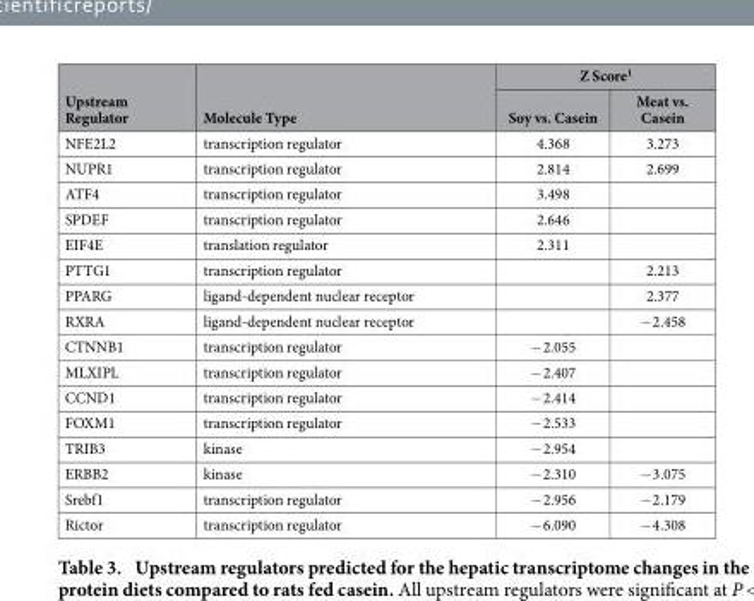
<table><thead><tr><td rowspan="2">Upstream Regulator</td><td rowspan="2">Molecule Type</td><td colspan="2">Z Score<sup>1</sup></td></tr><tr><td>Soy vs. Casein</td><td>Meat vs. Casein</td></tr></thead><tbody><tr><td>NFE2L2</td><td>transcription regulator</td><td>4.368</td><td>3.273</td></tr><tr><td>NUPR1</td><td>transcription regulator</td><td>2.814</td><td>2.699</td></tr><tr><td>ATF4</td><td>transcription regulator</td><td>3.498</td><td></td></tr><tr><td>SPDEF</td><td>transcription regulator</td><td>2.646</td><td></td></tr><tr><td>EIF4E</td><td>translation regulator</td><td>2.311</td><td></td></tr><tr><td>PTTG1</td><td>transcription regulator</td><td></td><td>2.213</td></tr><tr><td>PPARG</td><td>ligand-dependent nuclear receptor</td><td></td><td>2.377</td></tr><tr><td>RXRA</td><td>ligand-dependent nuclear receptor</td><td></td><td>− 2.458</td></tr><tr><td>CTNNB1</td><td>transcription regulator</td><td>− 2.055</td><td></td></tr><tr><td>MLXIPL</td><td>transcription regulator</td><td>− 2.407</td><td></td></tr><tr><td>CCND1</td><td>transcription regulator</td><td>− 2.414</td><td></td></tr><tr><td>FOXM1</td><td>transcription regulator</td><td>− 2.533</td><td></td></tr><tr><td>TRIB3</td><td>kinase</td><td>− 2.954</td><td></td></tr><tr><td>ERBB2</td><td>kinase</td><td>− 2.310</td><td>− 3.075</td></tr><tr><td>Srebf1</td><td>transcription regulator</td><td>− 2.956</td><td>− 2.179</td></tr><tr><td>Rictor</td><td>transcription regulator</td><td>− 6.090</td><td>− 4.308</td></tr></tbody></table>